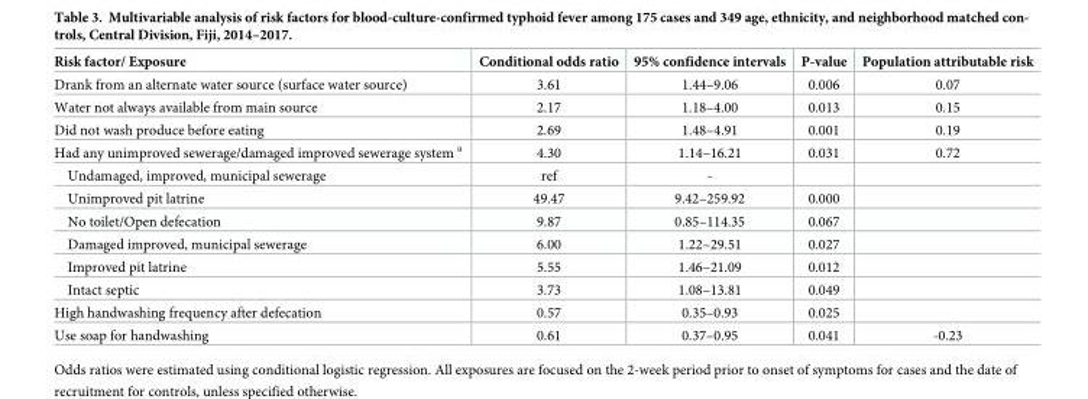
<table><thead><tr><td>Risk factor/ Exposure</td><td>Conditional odds ratio</td><td>95% confidence intervals</td><td>P-value</td><td>Population attributable risk</td></tr></thead><tbody><tr><td>Drank from an alternate water source (surface water source)</td><td>3.61</td><td>1.44–9.06</td><td>0.006</td><td>0.07</td></tr><tr><td>Water not always available from main source</td><td>2.17</td><td>1.18–4.00</td><td>0.013</td><td>0.15</td></tr><tr><td>Did not wash produce before eating</td><td>2.69</td><td>1.48–4.91</td><td>0.001</td><td>0.19</td></tr><tr><td>Had any unimproved sewerage/damaged improved sewerage system <sup>a</sup></td><td>4.30</td><td>1.14–16.21</td><td>0.031</td><td>0.72</td></tr><tr><td>Undamaged, improved, municipal sewerage</td><td>ref</td><td>-</td><td></td><td></td></tr><tr><td>Unimproved pit latrine</td><td>49.47</td><td>9.42–259.92</td><td>0.000</td><td></td></tr><tr><td>No toilet/Open defecation</td><td>9.87</td><td>0.85–114.35</td><td>0.067</td><td></td></tr><tr><td>Damaged improved, municipal sewerage</td><td>6.00</td><td>1.22–29.51</td><td>0.027</td><td></td></tr><tr><td>Improved pit latrine</td><td>5.55</td><td>1.46–21.09</td><td>0.012</td><td></td></tr><tr><td>Intact septic</td><td>3.73</td><td>1.08–13.81</td><td>0.049</td><td></td></tr><tr><td>High handwashing frequency after defecation</td><td>0.57</td><td>0.35–0.93</td><td>0.025</td><td></td></tr><tr><td>Use soap for handwashing</td><td>0.61</td><td>0.37–0.95</td><td>0.041</td><td>-0.23</td></tr></tbody></table>